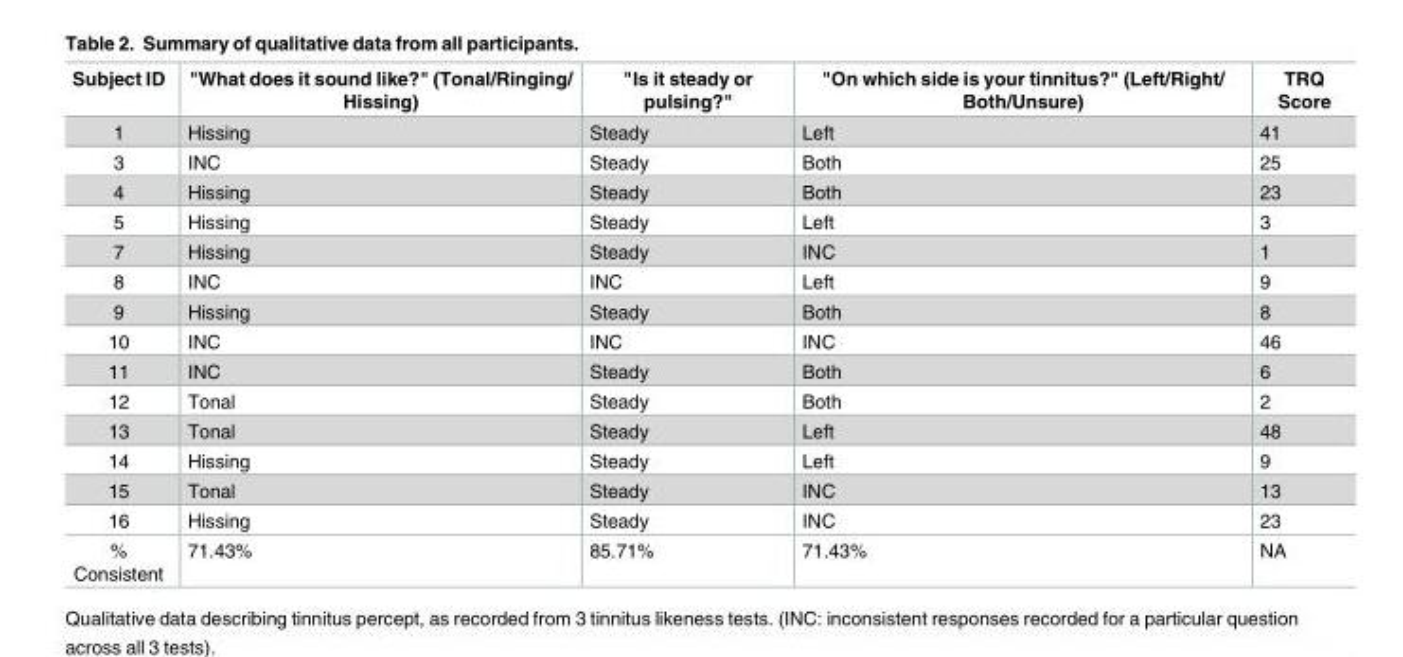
<table><thead><tr><td>Subject ID</td><td>&quot;What does it sound like?&quot; (Tonal/Ringing/ Hissing)</td><td>&quot;Is it steady or pulsing?&quot;</td><td>&quot;On which side is your tinnitus?&quot; (Left/Right/ Both/Unsure)</td><td>TRQ Score</td></tr></thead><tbody><tr><td>1</td><td>Hissing</td><td>Steady</td><td>Left</td><td>41</td></tr><tr><td>3</td><td>INC</td><td>Steady</td><td>Both</td><td>25</td></tr><tr><td>4</td><td>Hissing</td><td>Steady</td><td>Both</td><td>23</td></tr><tr><td>5</td><td>Hissing</td><td>Steady</td><td>Left</td><td>3</td></tr><tr><td>7</td><td>Hissing</td><td>Steady</td><td>INC</td><td>1</td></tr><tr><td>8</td><td>INC</td><td>INC</td><td>Left</td><td>9</td></tr><tr><td>9</td><td>Hissing</td><td>Steady</td><td>Both</td><td>8</td></tr><tr><td>10</td><td>INC</td><td>INC</td><td>INC</td><td>46</td></tr><tr><td>11</td><td>INC</td><td>Steady</td><td>Both</td><td>6</td></tr><tr><td>12</td><td>Tonal</td><td>Steady</td><td>Both</td><td>2</td></tr><tr><td>13</td><td>Tonal</td><td>Steady</td><td>Left</td><td>48</td></tr><tr><td>14</td><td>Hissing</td><td>Steady</td><td>Left</td><td>9</td></tr><tr><td>15</td><td>Tonal</td><td>Steady</td><td>INC</td><td>13</td></tr><tr><td>16</td><td>Hissing</td><td>Steady</td><td>INC</td><td>23</td></tr><tr><td>% Consistent</td><td>71.43%</td><td>85.71%</td><td>71.43%</td><td>NA</td></tr></tbody></table>